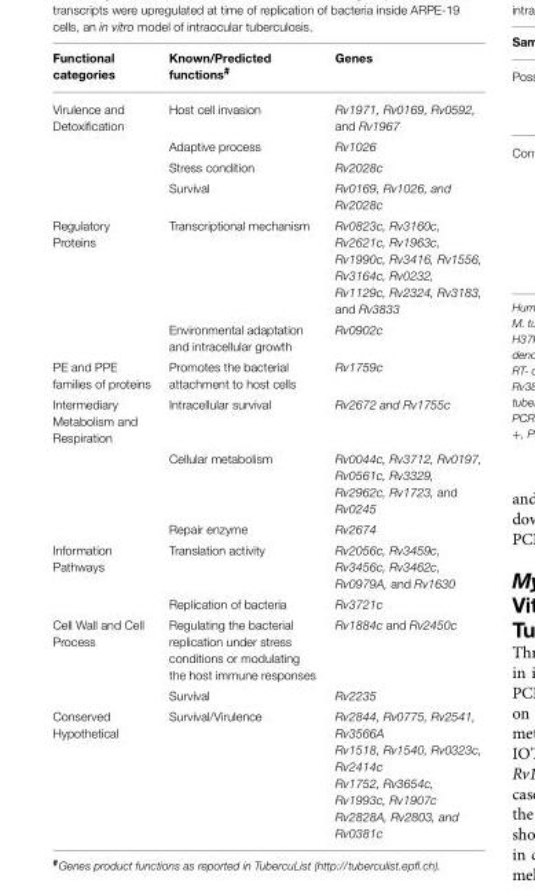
<table><thead><tr><td>Functional categories</td><td>Known/Predicted functions<sup>#</sup></td><td>Genes</td></tr></thead><tbody><tr><td rowspan="4">Virulence and Detoxification</td><td>Host cell invasion</td><td>Rv1971, Rv0169, Rv0592, and Rv1967</td></tr><tr><td>Adaptive process</td><td>Rv1026</td></tr><tr><td>Stress condition</td><td>Rv2028c</td></tr><tr><td>Survival</td><td>Rv0169, Rv1026, and Rv2028c</td></tr><tr><td rowspan="2">Regulatory Proteins</td><td>Transcriptional mechanism</td><td>Rv0823c, Rv3160c, Rv2621c, Rv1963c, Rv1990c, Rv3416, Rv1556, Rv3164c, Rv0232, Rv1129c, Rv2324, Rv3183, and Rv3833</td></tr><tr><td>Environmental adaptation and intracellular growth</td><td>Rv0902c</td></tr><tr><td>PE and PPE families of proteins</td><td>Promotes the bacterial attachment to host cells</td><td>Rv1759c</td></tr><tr><td rowspan="3">Intermediary Metabolism and Respiration</td><td>Intracellular survival</td><td>Rv2672 and Rv1755c</td></tr><tr><td>Cellular metabolism</td><td>Rv0044c, Rv3712, Rv0197, Rv0561c, Rv3329, Rv2962c, Rv1723, and Rv0245</td></tr><tr><td>Repair enzyme</td><td>Rv2674</td></tr><tr><td rowspan="2">Information Pathways</td><td>Translation activity</td><td>Rv2056c, Rv3459c, Rv3456c, Rv3462c, Rv0979A, and Rv1630</td></tr><tr><td>Replication of bacteria</td><td>Rv3721c</td></tr><tr><td rowspan="2">Cell Wall and Cell Process</td><td>Regulating the bacterial replication under stress conditions or modulating the host immune responses</td><td>Rv1884c and Rv2450c</td></tr><tr><td>Survival</td><td>Rv2235</td></tr><tr><td>Conserved Hypothetical</td><td>Survival/Virulence</td><td>Rv2844, Rv0775, Rv2541, Rv3566A Rv1518, Rv1540, Rv0323c, Rv2414c Rv1752, Rv3654c, Rv1993c, Rv1907c Rv2828A, Rv2803, and Rv0381c</td></tr></tbody></table>